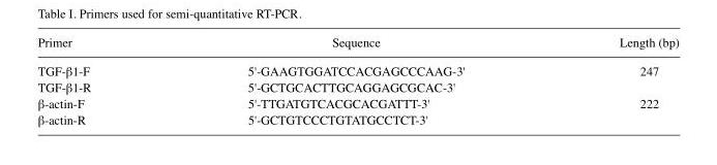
<table><thead><tr><td>Primer</td><td>Sequence</td><td>Length (bp)</td></tr></thead><tbody><tr><td>TGF-β1-F</td><td>5&#x27;-GAAGTGGATCCACGAGCCCAAG-3&#x27;</td><td>247</td></tr><tr><td>TGF-β1-R</td><td>5&#x27;-GCTGCACTTGCAGGAGCGCAC-3&#x27;</td><td></td></tr><tr><td>β-actin-F</td><td>5&#x27;-TTGATGTCACGCACGATTT-3&#x27;</td><td>222</td></tr><tr><td>β-actin-R</td><td>5&#x27;-GCTGTCCCTGTATGCCTCT-3&#x27;</td><td></td></tr></tbody></table>